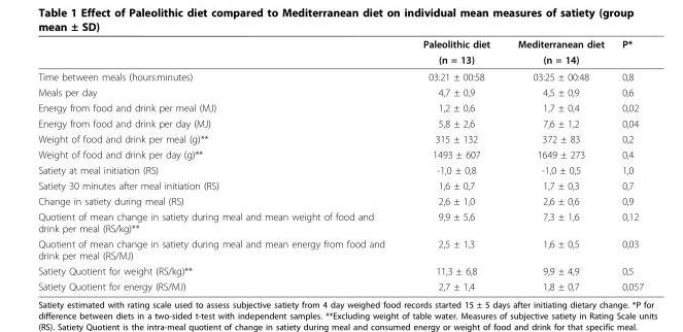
<table><thead><tr><td rowspan="2"></td><td rowspan="2">Paleolithic diet (n = 13)</td><td rowspan="2">Mediterranean diet (n = 14)</td><td rowspan="2">P*</td></tr><tr></tr></thead><tbody><tr><td>Time between meals (hours:minutes)</td><td>03:21 ± 00:58</td><td>03:25 ± 00:48</td><td>0,8</td></tr><tr><td>Meals per day</td><td>4,7 ± 0,9</td><td>4,5 ± 0,9</td><td>0,6</td></tr><tr><td>Energy from food and drink per meal (MJ)</td><td>1,2 ± 0,6</td><td>1,7 ± 0,4</td><td>0,02</td></tr><tr><td>Energy from food and drink per day (MJ)</td><td>5,8 ± 2,6</td><td>7,6 ± 1,2</td><td>0,04</td></tr><tr><td>Weight of food and drink per meal (g)**</td><td>315 ± 132</td><td>372 ± 83</td><td>0,2</td></tr><tr><td>Weight of food and drink per day (g)**</td><td>1493 ± 607</td><td>1649 ± 273</td><td>0,4</td></tr><tr><td>Satiety at meal initiation (RS)</td><td>-1,0 ± 0,8</td><td>-1,0 ± 0,5</td><td>1,0</td></tr><tr><td>Satiety 30 minutes after meal initiation (RS)</td><td>1,6 ± 0,7</td><td>1,7 ± 0,3</td><td>0,7</td></tr><tr><td>Change in satiety during meal (RS)</td><td>2,6 ± 1,0</td><td>2,6 ± 0,6</td><td>0,9</td></tr><tr><td>Quotient of mean change in satiety during meal and mean weight of food and drink per meal (RS/kg)**</td><td>9,9 ± 5,6</td><td>7,3 ± 1,6</td><td>0,12</td></tr><tr><td>Quotient of mean change in satiety during meal and mean energy from food and drink per meal (RS/MJ)</td><td>2,5 ± 1,3</td><td>1,6 ± 0,5</td><td>0,03</td></tr><tr><td>Satiety Quotient for weight (RS/kg)**</td><td>11,3 ± 6,8</td><td>9,9 ± 4,9</td><td>0,5</td></tr><tr><td>Satiety Quotient for energy (RS/MJ)</td><td>2,7 ± 1,4</td><td>1,8 ± 0,7</td><td>0,057</td></tr></tbody></table>